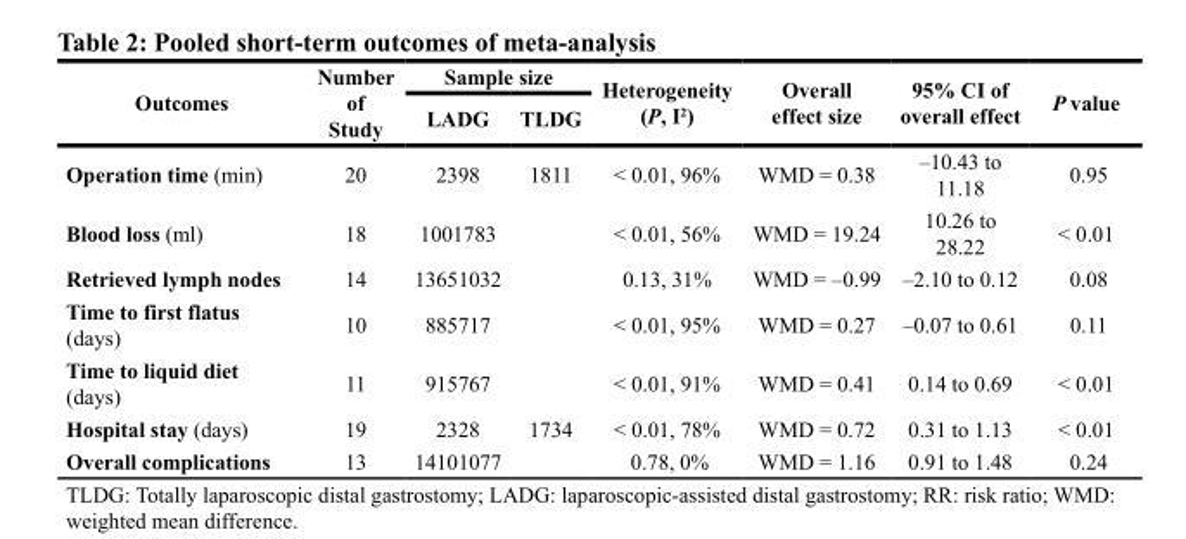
<table><thead><tr><td rowspan="2">Outcomes</td><td rowspan="2">Number of Study</td><td colspan="2">Sample size</td><td rowspan="2">Heterogeneity (P, I<sup>2</sup>)</td><td rowspan="2">Overall effect size</td><td rowspan="2">95% CI of overall effect</td><td rowspan="2">P value</td></tr><tr><td>LADG</td><td>TLDG</td></tr></thead><tbody><tr><td>Operation time (min)</td><td>20</td><td>2398</td><td>1811</td><td>&lt; 0.01, 96%</td><td>WMD = 0.38</td><td>–10.43 to 11.18</td><td>0.95</td></tr><tr><td>Blood loss (ml)</td><td>18</td><td>1001783</td><td></td><td>&lt; 0.01, 56%</td><td>WMD = 19.24</td><td>10.26 to 28.22</td><td>&lt; 0.01</td></tr><tr><td>Retrieved lymph nodes</td><td>14</td><td>13651032</td><td></td><td>0.13, 31%</td><td>WMD = –0.99</td><td>–2.10 to 0.12</td><td>0.08</td></tr><tr><td>Time to first flatus (days)</td><td>10</td><td>885717</td><td></td><td>&lt; 0.01, 95%</td><td>WMD = 0.27</td><td>–0.07 to 0.61</td><td>0.11</td></tr><tr><td>Time to liquid diet (days)</td><td>11</td><td>915767</td><td></td><td>&lt; 0.01, 91%</td><td>WMD = 0.41</td><td>0.14 to 0.69</td><td>&lt; 0.01</td></tr><tr><td>Hospital stay (days)</td><td>19</td><td>2328</td><td>1734</td><td>&lt; 0.01, 78%</td><td>WMD = 0.72</td><td>0.31 to 1.13</td><td>&lt; 0.01</td></tr><tr><td>Overall complications</td><td>13</td><td>14101077</td><td></td><td>0.78, 0%</td><td>WMD = 1.16</td><td>0.91 to 1.48</td><td>0.24</td></tr></tbody></table>